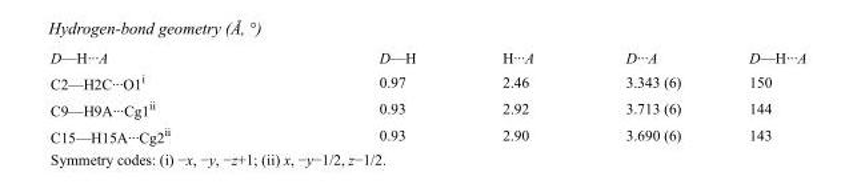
<table><tbody><tr><td>D—H···A</td><td>D—H</td><td>H···A</td><td>D···A</td><td>D—H···A</td></tr><tr><td>C2—H2C···O1<sup>i</sup></td><td>0.97</td><td>2.46</td><td>3.343 (6)</td><td>150</td></tr><tr><td>C9—H9A···Cg1<sup>ii</sup></td><td>0.93</td><td>2.92</td><td>3.713 (6)</td><td>144</td></tr><tr><td>C15—H15A···Cg2<sup>ii</sup></td><td>0.93</td><td>2.90</td><td>3.690 (6)</td><td>143</td></tr></tbody></table>